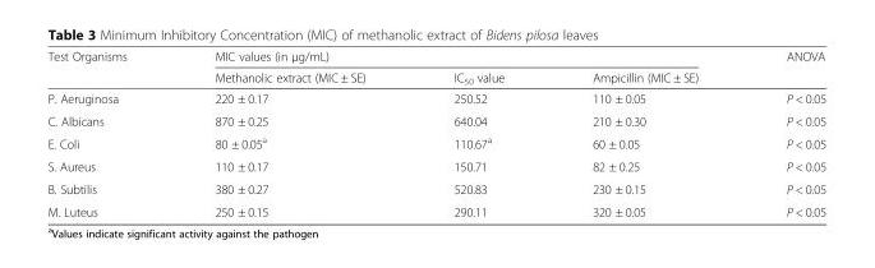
<table><thead><tr><td rowspan="2">Test Organisms</td><td colspan="3">MIC values (in μg/mL)</td><td rowspan="2">ANOVA</td></tr><tr><td>Methanolic extract (MIC ± SE)</td><td>IC<sub>50</sub> value</td><td>Ampicillin (MIC ± SE)</td></tr></thead><tbody><tr><td>P. Aeruginosa</td><td>220 ± 0.17</td><td>250.52</td><td>110 ± 0.05</td><td>P &lt; 0.05</td></tr><tr><td>C. Albicans</td><td>870 ± 0.25</td><td>640.04</td><td>210 ± 0.30</td><td>P &lt; 0.05</td></tr><tr><td>E. Coli</td><td>80 ± 0.05<sup>a</sup></td><td>110.67<sup>a</sup></td><td>60 ± 0.05</td><td>P &lt; 0.05</td></tr><tr><td>S. Aureus</td><td>110 ± 0.17</td><td>150.71</td><td>82 ± 0.25</td><td>P &lt; 0.05</td></tr><tr><td>B. Subtilis</td><td>380 ± 0.27</td><td>520.83</td><td>230 ± 0.15</td><td>P &lt; 0.05</td></tr><tr><td>M. Luteus</td><td>250 ± 0.15</td><td>290.11</td><td>320 ± 0.05</td><td>P &lt; 0.05</td></tr></tbody></table>